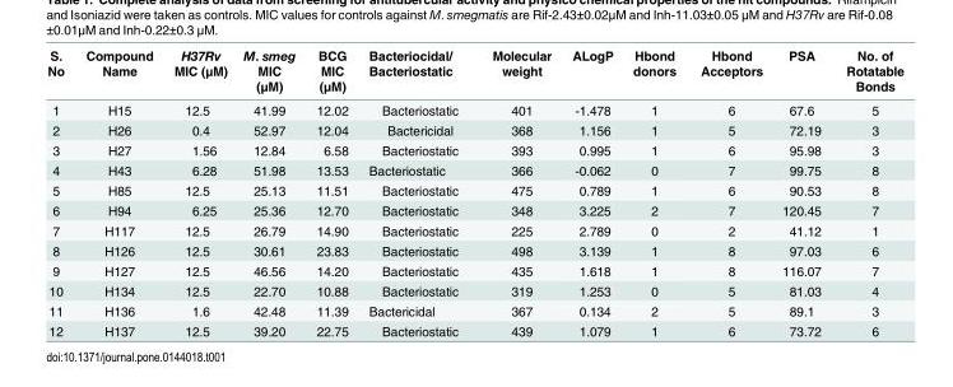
<table><thead><tr><td>S. No</td><td>Compound Name</td><td>H37Rv MIC (μM)</td><td>M. smeg MIC (μM)</td><td>BCG MIC (μM)</td><td>Bacteriocidal/ Bacteriostatic</td><td>Molecular weight</td><td>ALogP</td><td>Hbond donors</td><td>Hbond Acceptors</td><td>PSA</td><td>No. of Rotatable Bonds</td></tr></thead><tbody><tr><td>1</td><td>H15</td><td>12.5</td><td>41.99</td><td>12.02</td><td>Bacteriostatic</td><td>401</td><td>-1.478</td><td>1</td><td>6</td><td>67.6</td><td>5</td></tr><tr><td>2</td><td>H26</td><td>0.4</td><td>52.97</td><td>12.04</td><td>Bactericidal</td><td>368</td><td>1.156</td><td>1</td><td>5</td><td>72.19</td><td>3</td></tr><tr><td>3</td><td>H27</td><td>1.56</td><td>12.84</td><td>6.58</td><td>Bacteriostatic</td><td>393</td><td>0.995</td><td>1</td><td>6</td><td>95.98</td><td>3</td></tr><tr><td>4</td><td>H43</td><td>6.28</td><td>51.98</td><td>13.53</td><td>Bacteriostatic</td><td>366</td><td>-0.062</td><td>0</td><td>7</td><td>99.75</td><td>8</td></tr><tr><td>5</td><td>H85</td><td>12.5</td><td>25.13</td><td>11.51</td><td>Bacteriostatic</td><td>475</td><td>0.789</td><td>1</td><td>6</td><td>90.53</td><td>8</td></tr><tr><td>6</td><td>H94</td><td>6.25</td><td>25.36</td><td>12.70</td><td>Bacteriostatic</td><td>348</td><td>3.225</td><td>2</td><td>7</td><td>120.45</td><td>7</td></tr><tr><td>7</td><td>H117</td><td>12.5</td><td>26.79</td><td>14.90</td><td>Bacteriostatic</td><td>225</td><td>2.789</td><td>0</td><td>2</td><td>41.12</td><td>1</td></tr><tr><td>8</td><td>H126</td><td>12.5</td><td>30.61</td><td>23.83</td><td>Bacteriostatic</td><td>498</td><td>3.139</td><td>1</td><td>8</td><td>97.03</td><td>6</td></tr><tr><td>9</td><td>H127</td><td>12.5</td><td>46.56</td><td>14.20</td><td>Bacteriostatic</td><td>435</td><td>1.618</td><td>1</td><td>8</td><td>116.07</td><td>7</td></tr><tr><td>10</td><td>H134</td><td>12.5</td><td>22.70</td><td>10.88</td><td>Bacteriostatic</td><td>319</td><td>1.253</td><td>0</td><td>5</td><td>81.03</td><td>4</td></tr><tr><td>11</td><td>H136</td><td>1.6</td><td>42.48</td><td>11.39</td><td>Bactericidal</td><td>367</td><td>0.134</td><td>2</td><td>5</td><td>89.1</td><td>3</td></tr><tr><td>12</td><td>H137</td><td>12.5</td><td>39.20</td><td>22.75</td><td>Bacteriostatic</td><td>439</td><td>1.079</td><td>1</td><td>6</td><td>73.72</td><td>6</td></tr></tbody></table>